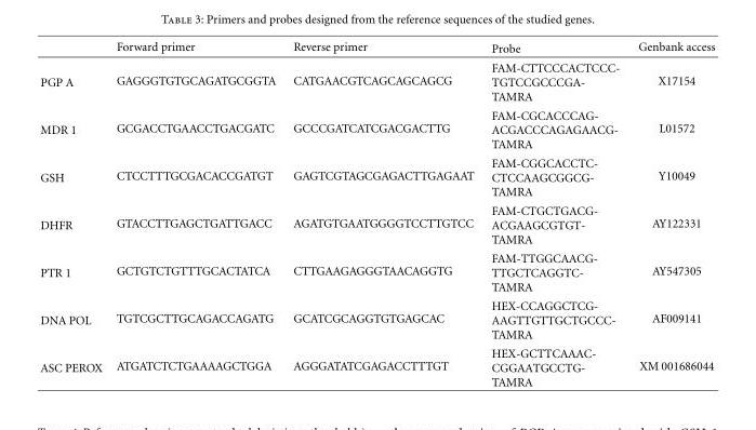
<table><thead><tr><td></td><td>Forward primer</td><td>Reverse primer</td><td>Probe</td><td>Genbank access</td></tr></thead><tbody><tr><td>PGP A</td><td>GAGGGTGTGCAGATGCGGTA</td><td>CATGAACGTCAGCAGCAGCG</td><td>FAM-CTTCCCACTCCC- TGTCCGCCCGA- TAMRA</td><td>X17154</td></tr><tr><td>MDR 1</td><td>GCGACCTGAACCTGACGATC</td><td>GCCCGATCATCGACGACTTG</td><td>FAM-CGCACCCAG- ACGACCCAGAGAACG- TAMRA</td><td>L01572</td></tr><tr><td>GSH</td><td>CTCCTTTGCGACACCGATGT</td><td>GAGTCGTAGCGAGACTTGAGAAT</td><td>FAM-CGGCACCTC- CTCCAAGCGGCG- TAMRA</td><td>Y10049</td></tr><tr><td>DHFR</td><td>GTACCTTGAGCTGATTGACC</td><td>AGATGTGAATGGGGTCCTTGTCC</td><td>FAM-CTGCTGACG- ACGAAGCGTGT- TAMRA</td><td>AY122331</td></tr><tr><td>PTR 1</td><td>GCTGTCTGTTTGCACTATCA</td><td>CTTGAAGAGGGTAACAGGTG</td><td>FAM-TTGGCAACG- TTGCTCAGGTC- TAMRA</td><td>AY547305</td></tr><tr><td>DNA POL</td><td>TGTCGCTTGCAGACCAGATG</td><td>GCATCGCAGGTGTGAGCAC</td><td>HEX-CCAGGCTCG- AAGTTGTTGCTGCCC- TAMRA</td><td>AF009141</td></tr><tr><td>ASC PEROX</td><td>ATGATCTCTGAAAAGCTGGA</td><td>AGGGATATCGAGACCTTTGT</td><td>HEX-GCTTCAAAC- CGGAATGCCTG- TAMRA</td><td>XM 001686044</td></tr></tbody></table>